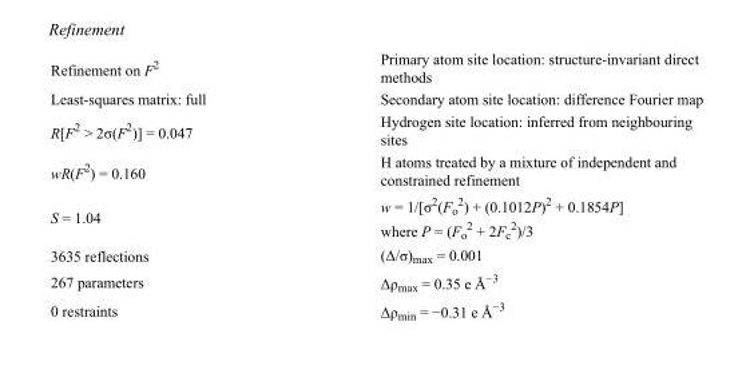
<table><tbody><tr><td>Refinement on F<sup>2</sup></td><td>Primary atom site location: structure-invariant direct methods</td></tr><tr><td>Least-squares matrix: full</td><td>Secondary atom site location: difference Fourier map</td></tr><tr><td>R[F<sup>2</sup> &gt; 2σ(F<sup>2</sup>)] = 0.047</td><td>Hydrogen site location: inferred from neighbouring sites</td></tr><tr><td>wR(F<sup>2</sup>) = 0.160</td><td>H atoms treated by a mixture of independent and constrained refinement</td></tr><tr><td>S = 1.04</td><td>w = 1/[σ<sup>2</sup>(F<sub>o</sub> <sup>2</sup>) + (0.1012P)<sup>2</sup> + 0.1854P] where P = (F<sub>o</sub> <sup>2</sup> + 2F<sub>c</sub> <sup>2</sup>)/3</td></tr><tr><td>3635 reflections</td><td>(Δ/σ)<sub>max</sub> = 0.001</td></tr><tr><td>267 parameters</td><td>Δρ<sub>max</sub> = 0.35 e Å<sup>−3</sup></td></tr><tr><td>0 restraints</td><td>Δρ<sub>min</sub> = −0.31 e Å<sup>−3</sup></td></tr></tbody></table>